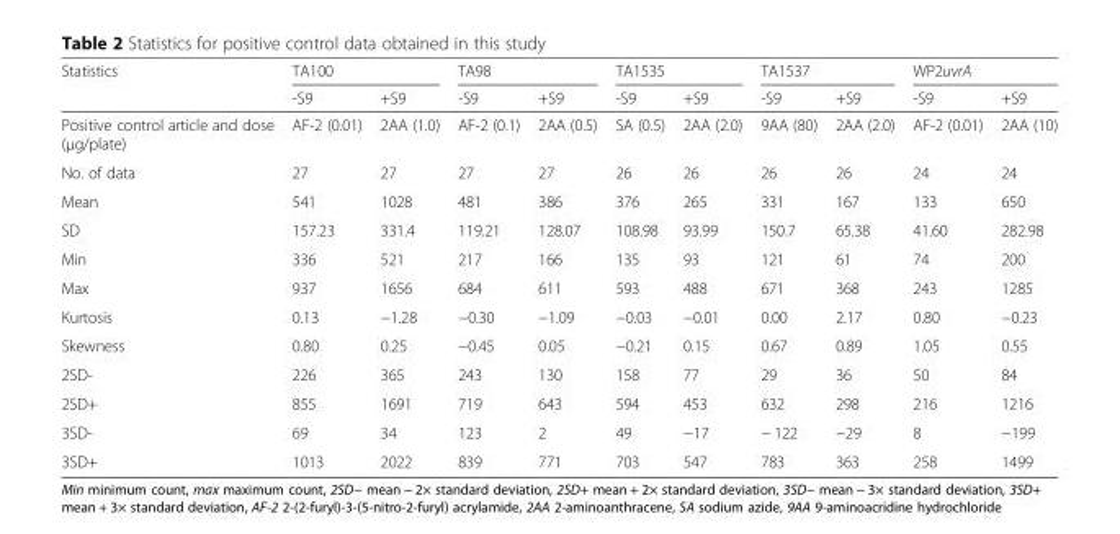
<table><thead><tr><td rowspan="2">Statistics</td><td colspan="2">TA100</td><td colspan="2">TA98</td><td colspan="2">TA1535</td><td colspan="2">TA1537</td><td colspan="2">WP2uvrA</td></tr><tr><td>-S9</td><td>+S9</td><td>-S9</td><td>+S9</td><td>-S9</td><td>+S9</td><td>-S9</td><td>+S9</td><td>-S9</td><td>+S9</td></tr></thead><tbody><tr><td>Positive control article and dose (μg/plate)</td><td>AF-2 (0.01)</td><td>2AA (1.0)</td><td>AF-2 (0.1)</td><td>2AA (0.5)</td><td>SA (0.5)</td><td>2AA (2.0)</td><td>9AA (80)</td><td>2AA (2.0)</td><td>AF-2 (0.01)</td><td>2AA (10)</td></tr><tr><td>No. of data</td><td>27</td><td>27</td><td>27</td><td>27</td><td>26</td><td>26</td><td>26</td><td>26</td><td>24</td><td>24</td></tr><tr><td>Mean</td><td>541</td><td>1028</td><td>481</td><td>386</td><td>376</td><td>265</td><td>331</td><td>167</td><td>133</td><td>650</td></tr><tr><td>SD</td><td>157.23</td><td>331.4</td><td>119.21</td><td>128.07</td><td>108.98</td><td>93.99</td><td>150.7</td><td>65.38</td><td>41.60</td><td>282.98</td></tr><tr><td>Min</td><td>336</td><td>521</td><td>217</td><td>166</td><td>135</td><td>93</td><td>121</td><td>61</td><td>74</td><td>200</td></tr><tr><td>Max</td><td>937</td><td>1656</td><td>684</td><td>611</td><td>593</td><td>488</td><td>671</td><td>368</td><td>243</td><td>1285</td></tr><tr><td>Kurtosis</td><td>0.13</td><td>−1.28</td><td>−0.30</td><td>−1.09</td><td>−0.03</td><td>−0.01</td><td>0.00</td><td>2.17</td><td>0.80</td><td>−0.23</td></tr><tr><td>Skewness</td><td>0.80</td><td>0.25</td><td>−0.45</td><td>0.05</td><td>−0.21</td><td>0.15</td><td>0.67</td><td>0.89</td><td>1.05</td><td>0.55</td></tr><tr><td>2SD-</td><td>226</td><td>365</td><td>243</td><td>130</td><td>158</td><td>77</td><td>29</td><td>36</td><td>50</td><td>84</td></tr><tr><td>2SD+</td><td>855</td><td>1691</td><td>719</td><td>643</td><td>594</td><td>453</td><td>632</td><td>298</td><td>216</td><td>1216</td></tr><tr><td>3SD-</td><td>69</td><td>34</td><td>123</td><td>2</td><td>49</td><td>−17</td><td>− 122</td><td>−29</td><td>8</td><td>−199</td></tr><tr><td>3SD+</td><td>1013</td><td>2022</td><td>839</td><td>771</td><td>703</td><td>547</td><td>783</td><td>363</td><td>258</td><td>1499</td></tr></tbody></table>